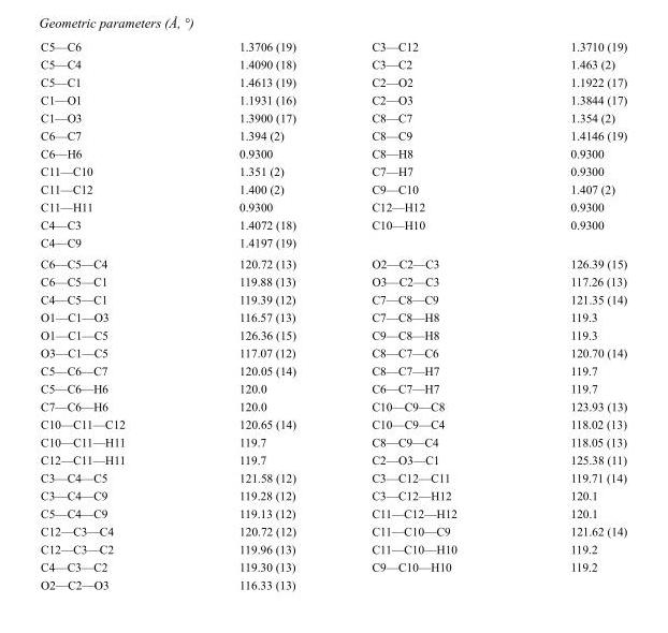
<table><tbody><tr><td>C5—C6</td><td>1.3706 (19)</td><td>C3—C12</td><td>1.3710 (19)</td></tr><tr><td>C5—C4</td><td>1.4090 (18)</td><td>C3—C2</td><td>1.463 (2)</td></tr><tr><td>C5—C1</td><td>1.4613 (19)</td><td>C2—O2</td><td>1.1922 (17)</td></tr><tr><td>C1—O1</td><td>1.1931 (16)</td><td>C2—O3</td><td>1.3844 (17)</td></tr><tr><td>C1—O3</td><td>1.3900 (17)</td><td>C8—C7</td><td>1.354 (2)</td></tr><tr><td>C6—C7</td><td>1.394 (2)</td><td>C8—C9</td><td>1.4146 (19)</td></tr><tr><td>C6—H6</td><td>0.9300</td><td>C8—H8</td><td>0.9300</td></tr><tr><td>C11—C10</td><td>1.351 (2)</td><td>C7—H7</td><td>0.9300</td></tr><tr><td>C11—C12</td><td>1.400 (2)</td><td>C9—C10</td><td>1.407 (2)</td></tr><tr><td>C11—H11</td><td>0.9300</td><td>C12—H12</td><td>0.9300</td></tr><tr><td>C4—C3</td><td>1.4072 (18)</td><td>C10—H10</td><td>0.9300</td></tr><tr><td>C4—C9</td><td>1.4197 (19)</td><td></td><td></td></tr><tr><td>C6—C5—C4</td><td>120.72 (13)</td><td>O2—C2—C3</td><td>126.39 (15)</td></tr><tr><td>C6—C5—C1</td><td>119.88 (13)</td><td>O3—C2—C3</td><td>117.26 (13)</td></tr><tr><td>C4—C5—C1</td><td>119.39 (12)</td><td>C7—C8—C9</td><td>121.35 (14)</td></tr><tr><td>O1—C1—O3</td><td>116.57 (13)</td><td>C7—C8—H8</td><td>119.3</td></tr><tr><td>O1—C1—C5</td><td>126.36 (15)</td><td>C9—C8—H8</td><td>119.3</td></tr><tr><td>O3—C1—C5</td><td>117.07 (12)</td><td>C8—C7—C6</td><td>120.70 (14)</td></tr><tr><td>C5—C6—C7</td><td>120.05 (14)</td><td>C8—C7—H7</td><td>119.7</td></tr><tr><td>C5—C6—H6</td><td>120.0</td><td>C6—C7—H7</td><td>119.7</td></tr><tr><td>C7—C6—H6</td><td>120.0</td><td>C10—C9—C8</td><td>123.93 (13)</td></tr><tr><td>C10—C11—C12</td><td>120.65 (14)</td><td>C10—C9—C4</td><td>118.02 (13)</td></tr><tr><td>C10—C11—H11</td><td>119.7</td><td>C8—C9—C4</td><td>118.05 (13)</td></tr><tr><td>C12—C11—H11</td><td>119.7</td><td>C2—O3—C1</td><td>125.38 (11)</td></tr><tr><td>C3—C4—C5</td><td>121.58 (12)</td><td>C3—C12—C11</td><td>119.71 (14)</td></tr><tr><td>C3—C4—C9</td><td>119.28 (12)</td><td>C3—C12—H12</td><td>120.1</td></tr><tr><td>C5—C4—C9</td><td>119.13 (12)</td><td>C11—C12—H12</td><td>120.1</td></tr><tr><td>C12—C3—C4</td><td>120.72 (12)</td><td>C11—C10—C9</td><td>121.62 (14)</td></tr><tr><td>C12—C3—C2</td><td>119.96 (13)</td><td>C11—C10—H10</td><td>119.2</td></tr><tr><td>C4—C3—C2</td><td>119.30 (13)</td><td>C9—C10—H10</td><td>119.2</td></tr><tr><td>O2—C2—O3</td><td>116.33 (13)</td><td></td><td></td></tr></tbody></table>